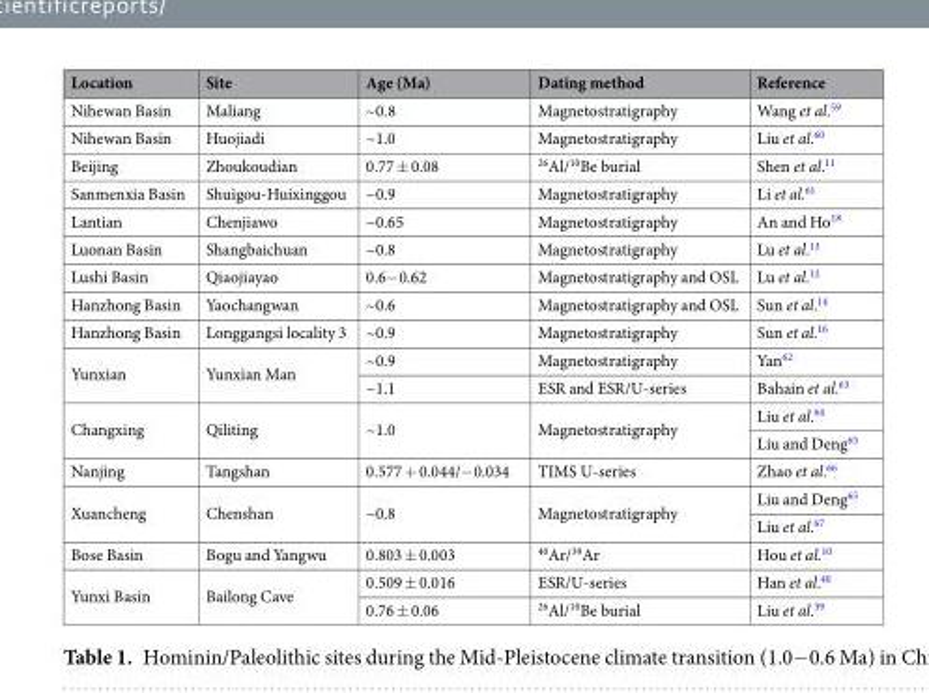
<table><thead><tr><td>Location</td><td>Site</td><td>Age (Ma)</td><td>Dating method</td><td>Reference</td></tr></thead><tbody><tr><td>Nihewan Basin</td><td>Maliang</td><td>~0.8</td><td>Magnetostratigraphy</td><td>Wang et al.<sup>59</sup></td></tr><tr><td>Nihewan Basin</td><td>Huojiadi</td><td>~1.0</td><td>Magnetostratigraphy</td><td>Liu et al.<sup>60</sup></td></tr><tr><td>Beijing</td><td>Zhoukoudian</td><td>0.77 ± 0.08</td><td><sup>26</sup>Al/<sup>10</sup>Be burial</td><td>Shen et al.<sup>11</sup></td></tr><tr><td>Sanmenxia Basin</td><td>Shuigou-Huixinggou</td><td>~0.9</td><td>Magnetostratigraphy</td><td>Li et al.<sup>61</sup></td></tr><tr><td>Lantian</td><td>Chenjiawo</td><td>~0.65</td><td>Magnetostratigraphy</td><td>An and Ho<sup>18</sup></td></tr><tr><td>Luonan Basin</td><td>Shangbaichuan</td><td>~0.8</td><td>Magnetostratigraphy</td><td>Lu et al.<sup>13</sup></td></tr><tr><td>Lushi Basin</td><td>Qiaojiayao</td><td>0.6−0.62</td><td>Magnetostratigraphy and OSL</td><td>Lu et al.<sup>12</sup></td></tr><tr><td>Hanzhong Basin</td><td>Yaochangwan</td><td>~0.6</td><td>Magnetostratigraphy and OSL</td><td>Sun et al.<sup>14</sup></td></tr><tr><td>Hanzhong Basin</td><td>Longgangsi locality 3</td><td>~0.9</td><td>Magnetostratigraphy</td><td>Sun et al.<sup>16</sup></td></tr><tr><td rowspan="2">Yunxian</td><td rowspan="2">Yunxian Man</td><td>~0.9</td><td>Magnetostratigraphy</td><td>Yan<sup>62</sup></td></tr><tr><td>~1.1</td><td>ESR and ESR/U-series</td><td>Bahain et al.<sup>63</sup></td></tr><tr><td rowspan="2">Changxing</td><td rowspan="2">Qiliting</td><td rowspan="2">~1.0</td><td rowspan="2">Magnetostratigraphy</td><td>Liu et al.<sup>64</sup></td></tr><tr><td>Liu and Deng<sup>65</sup></td></tr><tr><td>Nanjing</td><td>Tangshan</td><td>0.577 + 0.044/−0.034</td><td>TIMS U-series</td><td>Zhao et al.<sup>66</sup></td></tr><tr><td rowspan="2">Xuancheng</td><td rowspan="2">Chenshan</td><td rowspan="2">~0.8</td><td rowspan="2">Magnetostratigraphy</td><td>Liu and Deng<sup>65</sup></td></tr><tr><td>Liu et al.<sup>67</sup></td></tr><tr><td>Bose Basin</td><td>Bogu and Yangwu</td><td>0.803 ± 0.003</td><td><sup>40</sup>Ar/<sup>39</sup>Ar</td><td>Hou et al.<sup>10</sup></td></tr><tr><td rowspan="2">Yunxi Basin</td><td rowspan="2">Bailong Cave</td><td>0.509 ± 0.016</td><td>ESR/U-series</td><td>Han et al.<sup>40</sup></td></tr><tr><td>0.76 ± 0.06</td><td><sup>26</sup>Al/<sup>10</sup>Be burial</td><td>Liu et al.<sup>39</sup></td></tr></tbody></table>